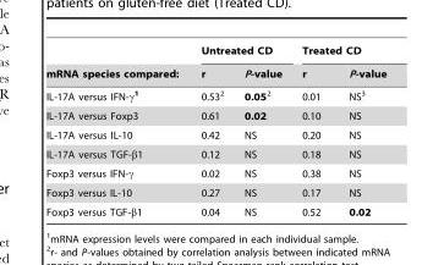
<table><thead><tr><td rowspan="2">mRNA species compared:</td><td colspan="2">Untreated CD</td><td colspan="2">Treated CD</td></tr><tr><td>r</td><td>P-value</td><td>r</td><td>P-value</td></tr></thead><tbody><tr><td>IL-17A versus IFN-γ<sup>1</sup></td><td>0.53<sup>2</sup></td><td>0.052</td><td>0.01</td><td>NS<sup>3</sup></td></tr><tr><td>IL-17A versus Foxp3</td><td>0.61</td><td>0.02</td><td>0.10</td><td>NS</td></tr><tr><td>IL-17A versus IL-10</td><td>0.42</td><td>NS</td><td>0.20</td><td>NS</td></tr><tr><td>IL-17A versus TGF-β1</td><td>0.12</td><td>NS</td><td>0.18</td><td>NS</td></tr><tr><td>Foxp3 versus IFN-γ</td><td>0.02</td><td>NS</td><td>0.38</td><td>NS</td></tr><tr><td>Foxp3 versus IL-10</td><td>0.27</td><td>NS</td><td>0.17</td><td>NS</td></tr><tr><td>Foxp3 versus TGF-β1</td><td>0.04</td><td>NS</td><td>0.52</td><td>0.02</td></tr></tbody></table>